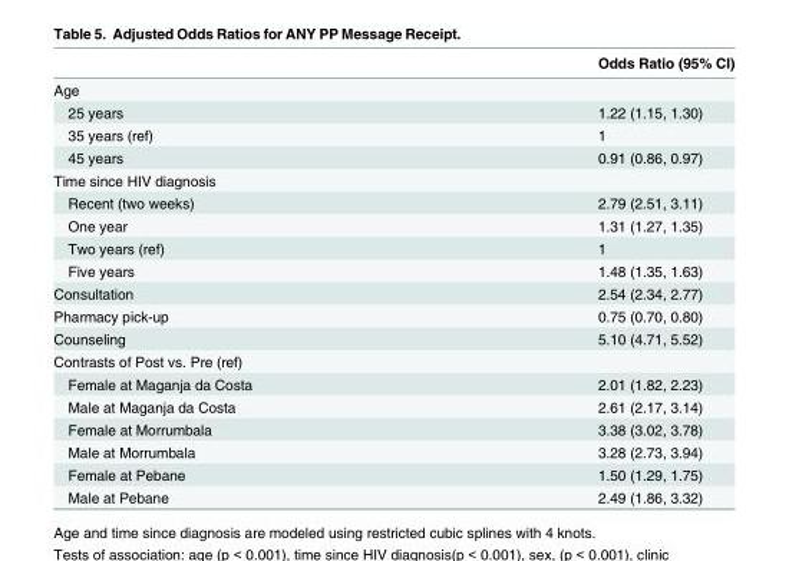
<table><thead><tr><td></td><td>Odds Ratio (95% CI)</td></tr></thead><tbody><tr><td colspan="2">Age</td></tr><tr><td>25 years</td><td>1.22 (1.15, 1.30)</td></tr><tr><td>35 years (ref)</td><td>1</td></tr><tr><td>45 years</td><td>0.91 (0.86, 0.97)</td></tr><tr><td colspan="2">Time since HIV diagnosis</td></tr><tr><td>Recent (two weeks)</td><td>2.79 (2.51, 3.11)</td></tr><tr><td>One year</td><td>1.31 (1.27, 1.35)</td></tr><tr><td>Two years (ref)</td><td>1</td></tr><tr><td>Five years</td><td>1.48 (1.35, 1.63)</td></tr><tr><td>Consultation</td><td>2.54 (2.34, 2.77)</td></tr><tr><td>Pharmacy pick-up</td><td>0.75 (0.70, 0.80)</td></tr><tr><td>Counseling</td><td>5.10 (4.71, 5.52)</td></tr><tr><td colspan="2">Contrasts of Post vs. Pre (ref)</td></tr><tr><td>Female at Maganja da Costa</td><td>2.01 (1.82, 2.23)</td></tr><tr><td>Male at Maganja da Costa</td><td>2.61 (2.17, 3.14)</td></tr><tr><td>Female at Morrumbala</td><td>3.38 (3.02, 3.78)</td></tr><tr><td>Male at Morrumbala</td><td>3.28 (2.73, 3.94)</td></tr><tr><td>Female at Pebane</td><td>1.50 (1.29, 1.75)</td></tr><tr><td>Male at Pebane</td><td>2.49 (1.86, 3.32)</td></tr></tbody></table>